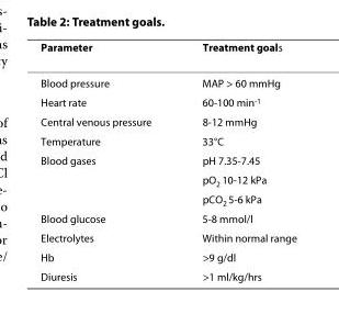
<table><thead><tr><td>Parameter</td><td>Treatment goals</td></tr></thead><tbody><tr><td>Blood pressure</td><td>MAP &gt; 60 mmHg</td></tr><tr><td>Heart rate</td><td>60-100 min<sup>-1</sup></td></tr><tr><td>Central venous pressure</td><td>8-12 mmHg</td></tr><tr><td>Temperature</td><td>33°C</td></tr><tr><td rowspan="3">Blood gases</td><td>pH 7.35-7.45</td></tr><tr><td>pO<sub>2</sub> 10-12 kPa</td></tr><tr><td>pCO<sub>2</sub> 5-6 kPa</td></tr><tr><td>Blood glucose</td><td>5-8 mmol/l</td></tr><tr><td>Electrolytes</td><td>Within normal range</td></tr><tr><td>Hb</td><td>&gt;9 g/dl</td></tr><tr><td>Diuresis</td><td>&gt;1 ml/kg/hrs</td></tr></tbody></table>